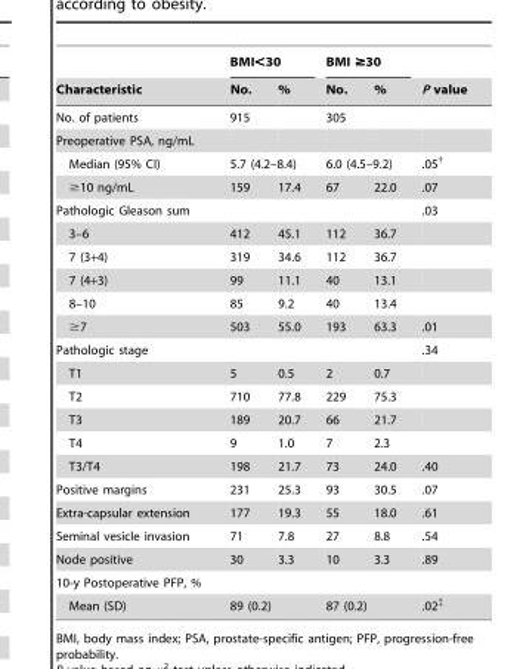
<table><thead><tr><td rowspan="2">Characteristic</td><td colspan="2">BMI&lt;30</td><td colspan="2">BMI ≥30</td><td rowspan="2">P value</td></tr><tr><td>No.</td><td>%</td><td>No.</td><td>%</td></tr></thead><tbody><tr><td>No. of patients</td><td>915</td><td></td><td>305</td><td></td><td></td></tr><tr><td colspan="6">Preoperative PSA, ng/mL</td></tr><tr><td>Median (95% CI)</td><td colspan="2">5.7 (4.2–8.4)</td><td colspan="2">6.0 (4.5–9.2)</td><td>.05†</td></tr><tr><td>≥10 ng/mL</td><td>159</td><td>17.4</td><td>67</td><td>22.0</td><td>.07</td></tr><tr><td>Pathologic Gleason sum</td><td></td><td></td><td></td><td></td><td>.03</td></tr><tr><td>3–6</td><td>412</td><td>45.1</td><td>112</td><td>36.7</td><td></td></tr><tr><td>7 (3+4)</td><td>319</td><td>34.6</td><td>112</td><td>36.7</td><td></td></tr><tr><td>7 (4+3)</td><td>99</td><td>11.1</td><td>40</td><td>13.1</td><td></td></tr><tr><td>8–10</td><td>85</td><td>9.2</td><td>40</td><td>13.4</td><td></td></tr><tr><td>≥7</td><td>503</td><td>55.0</td><td>193</td><td>63.3</td><td>.01</td></tr><tr><td>Pathologic stage</td><td></td><td></td><td></td><td></td><td>.34</td></tr><tr><td>T1</td><td>5</td><td>0.5</td><td>2</td><td>0.7</td><td></td></tr><tr><td>T2</td><td>710</td><td>77.8</td><td>229</td><td>75.3</td><td></td></tr><tr><td>T3</td><td>189</td><td>20.7</td><td>66</td><td>21.7</td><td></td></tr><tr><td>T4</td><td>9</td><td>1.0</td><td>7</td><td>2.3</td><td></td></tr><tr><td>T3/T4</td><td>198</td><td>21.7</td><td>73</td><td>24.0</td><td>.40</td></tr><tr><td>Positive margins</td><td>231</td><td>25.3</td><td>93</td><td>30.5</td><td>.07</td></tr><tr><td>Extra-capsular extension</td><td>177</td><td>19.3</td><td>55</td><td>18.0</td><td>.61</td></tr><tr><td>Seminal vesicle invasion</td><td>71</td><td>7.8</td><td>27</td><td>8.8</td><td>.54</td></tr><tr><td>Node positive</td><td>30</td><td>3.3</td><td>10</td><td>3.3</td><td>.89</td></tr><tr><td colspan="6">10-y Postoperative PFP, %</td></tr><tr><td>Mean (SD)</td><td colspan="2">89 (0.2)</td><td colspan="2">87 (0.2)</td><td>.02‡</td></tr></tbody></table>